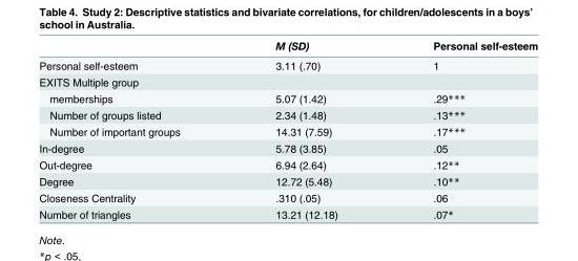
<table><thead><tr><td></td><td>M (SD)</td><td>Personal self-esteem</td></tr></thead><tbody><tr><td>Personal self-esteem</td><td>3.11 (.70)</td><td>1</td></tr><tr><td colspan="3">EXITS Multiple group</td></tr><tr><td>memberships</td><td>5.07 (1.42)</td><td>.29***</td></tr><tr><td>Number of groups listed</td><td>2.34 (1.48)</td><td>.13***</td></tr><tr><td>Number of important groups</td><td>14.31 (7.59)</td><td>.17***</td></tr><tr><td>In-degree</td><td>5.78 (3.85)</td><td>.05</td></tr><tr><td>Out-degree</td><td>6.94 (2.64)</td><td>.12**</td></tr><tr><td>Degree</td><td>12.72 (5.48)</td><td>.10**</td></tr><tr><td>Closeness Centrality</td><td>.310 (.05)</td><td>.06</td></tr><tr><td>Number of triangles</td><td>13.21 (12.18)</td><td>.07*</td></tr></tbody></table>